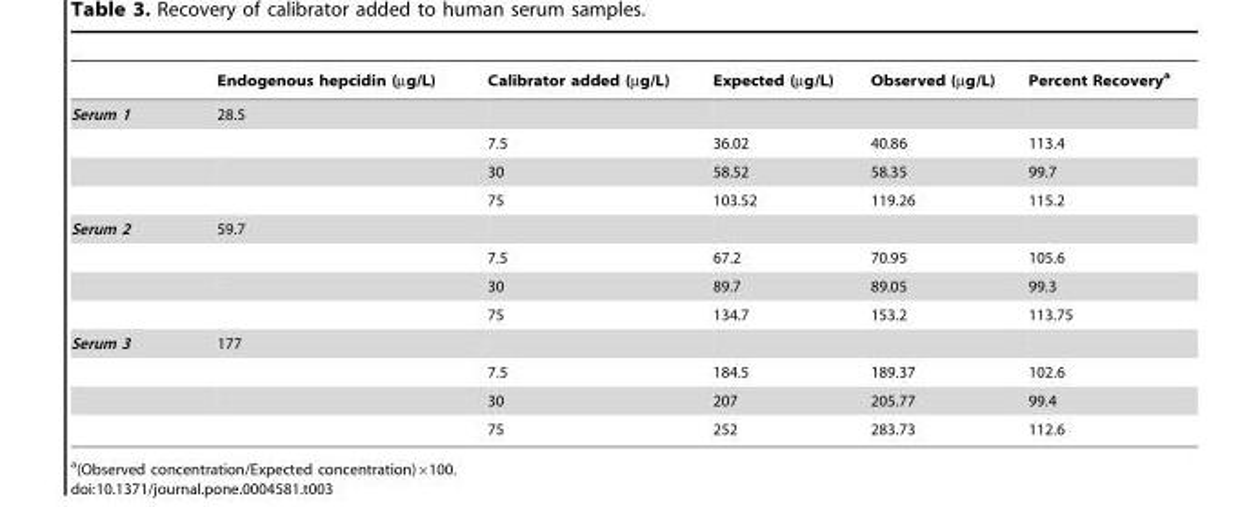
<table><thead><tr><td></td><td>Endogenous hepcidin (µg/L)</td><td>Calibrator added (µg/L)</td><td>Expected (µg/L)</td><td>Observed (µg/L)</td><td>Percent Recovery<sup>a</sup></td></tr></thead><tbody><tr><td rowspan="4">Serum 1</td><td>28.5</td><td></td><td></td><td></td><td></td></tr><tr><td></td><td>7.5</td><td>36.02</td><td>40.86</td><td>113.4</td></tr><tr><td></td><td>30</td><td>58.52</td><td>58.35</td><td>99.7</td></tr><tr><td></td><td>75</td><td>103.52</td><td>119.26</td><td>115.2</td></tr><tr><td rowspan="4">Serum 2</td><td>59.7</td><td></td><td></td><td></td><td></td></tr><tr><td></td><td>7.5</td><td>67.2</td><td>70.95</td><td>105.6</td></tr><tr><td></td><td>30</td><td>89.7</td><td>89.05</td><td>99.3</td></tr><tr><td></td><td>75</td><td>134.7</td><td>153.2</td><td>113.75</td></tr><tr><td rowspan="4">Serum 3</td><td>177</td><td></td><td></td><td></td><td></td></tr><tr><td></td><td>7.5</td><td>184.5</td><td>189.37</td><td>102.6</td></tr><tr><td></td><td>30</td><td>207</td><td>205.77</td><td>99.4</td></tr><tr><td></td><td>75</td><td>252</td><td>283.73</td><td>112.6</td></tr></tbody></table>